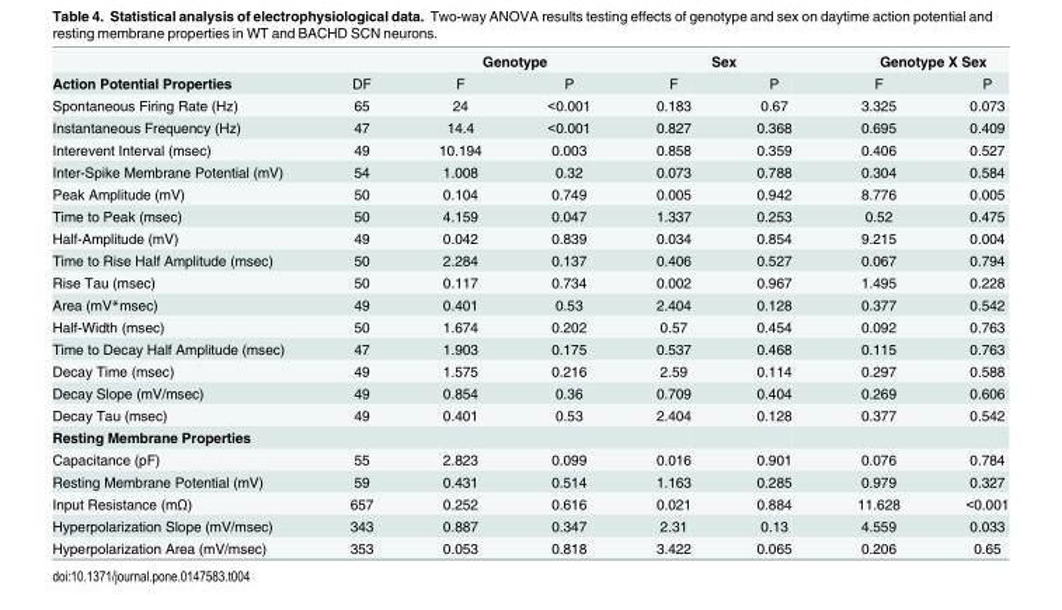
<table><thead><tr><td rowspan="2">Action Potential Properties</td><td rowspan="2">DF</td><td colspan="2">Genotype</td><td colspan="2">Sex</td><td colspan="2">Genotype X Sex</td></tr><tr><td>F</td><td>P</td><td>F</td><td>P</td><td>F</td><td>P</td></tr></thead><tbody><tr><td>Spontaneous Firing Rate (Hz)</td><td>65</td><td>24</td><td>&lt;0.001</td><td>0.183</td><td>0.67</td><td>3.325</td><td>0.073</td></tr><tr><td>Instantaneous Frequency (Hz)</td><td>47</td><td>14.4</td><td>&lt;0.001</td><td>0.827</td><td>0.368</td><td>0.695</td><td>0.409</td></tr><tr><td>Interevent Interval (msec)</td><td>49</td><td>10.194</td><td>0.003</td><td>0.858</td><td>0.359</td><td>0.406</td><td>0.527</td></tr><tr><td>Inter-Spike Membrane Potential (mV)</td><td>54</td><td>1.008</td><td>0.32</td><td>0.073</td><td>0.788</td><td>0.304</td><td>0.584</td></tr><tr><td>Peak Amplitude (mV)</td><td>50</td><td>0.104</td><td>0.749</td><td>0.005</td><td>0.942</td><td>8.776</td><td>0.005</td></tr><tr><td>Time to Peak (msec)</td><td>50</td><td>4.159</td><td>0.047</td><td>1.337</td><td>0.253</td><td>0.52</td><td>0.475</td></tr><tr><td>Half-Amplitude (mV)</td><td>49</td><td>0.042</td><td>0.839</td><td>0.034</td><td>0.854</td><td>9.215</td><td>0.004</td></tr><tr><td>Time to Rise Half Amplitude (msec)</td><td>50</td><td>2.284</td><td>0.137</td><td>0.406</td><td>0.527</td><td>0.067</td><td>0.794</td></tr><tr><td>Rise Tau (msec)</td><td>50</td><td>0.117</td><td>0.734</td><td>0.002</td><td>0.967</td><td>1.495</td><td>0.228</td></tr><tr><td>Area (mV*msec)</td><td>49</td><td>0.401</td><td>0.53</td><td>2.404</td><td>0.128</td><td>0.377</td><td>0.542</td></tr><tr><td>Half-Width (msec)</td><td>50</td><td>1.674</td><td>0.202</td><td>0.57</td><td>0.454</td><td>0.092</td><td>0.763</td></tr><tr><td>Time to Decay Half Amplitude (msec)</td><td>47</td><td>1.903</td><td>0.175</td><td>0.537</td><td>0.468</td><td>0.115</td><td>0.763</td></tr><tr><td>Decay Time (msec)</td><td>49</td><td>1.575</td><td>0.216</td><td>2.59</td><td>0.114</td><td>0.297</td><td>0.588</td></tr><tr><td>Decay Slope (mV/msec)</td><td>49</td><td>0.854</td><td>0.36</td><td>0.709</td><td>0.404</td><td>0.269</td><td>0.606</td></tr><tr><td>Decay Tau (msec)</td><td>49</td><td>0.401</td><td>0.53</td><td>2.404</td><td>0.128</td><td>0.377</td><td>0.542</td></tr><tr><td colspan="8">Resting Membrane Properties</td></tr><tr><td>Capacitance (pF)</td><td>55</td><td>2.823</td><td>0.099</td><td>0.016</td><td>0.901</td><td>0.076</td><td>0.784</td></tr><tr><td>Resting Membrane Potential (mV)</td><td>59</td><td>0.431</td><td>0.514</td><td>1.163</td><td>0.285</td><td>0.979</td><td>0.327</td></tr><tr><td>Input Resistance (mΩ)</td><td>657</td><td>0.252</td><td>0.616</td><td>0.021</td><td>0.884</td><td>11.628</td><td>&lt;0.001</td></tr><tr><td>Hyperpolarization Slope (mV/msec)</td><td>343</td><td>0.887</td><td>0.347</td><td>2.31</td><td>0.13</td><td>4.559</td><td>0.033</td></tr><tr><td>Hyperpolarization Area (mV/msec)</td><td>353</td><td>0.053</td><td>0.818</td><td>3.422</td><td>0.065</td><td>0.206</td><td>0.65</td></tr></tbody></table>